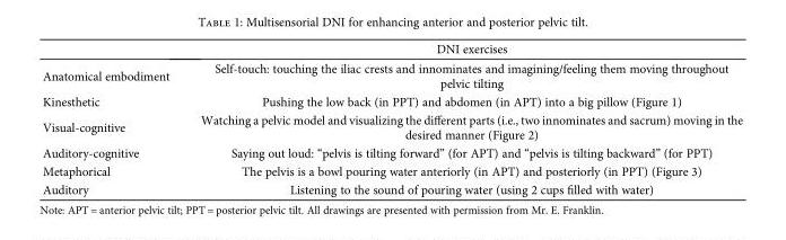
<table><thead><tr><td></td><td>DNI exercises</td></tr></thead><tbody><tr><td>Anatomical embodiment</td><td>Self-touch: touching the iliac crests and innominates and imagining/feeling them moving throughout pelvic tilting</td></tr><tr><td>Kinesthetic</td><td>Pushing the low back (in PPT) and abdomen (in APT) into a big pillow (Figure 1)</td></tr><tr><td>Visual-cognitive</td><td>Watching a pelvic model and visualizing the different parts (i.e., two innominates and sacrum) moving in the desired manner (Figure 2)</td></tr><tr><td>Auditory-cognitive</td><td>Saying out loud: “pelvis is tilting forward” (for APT) and “pelvis is tilting backward” (for PPT)</td></tr><tr><td>Metaphorical</td><td>The pelvis is a bowl pouring water anteriorly (in APT) and posteriorly (in PPT) (Figure 3)</td></tr><tr><td>Auditory</td><td>Listening to the sound of pouring water (using 2 cups filled with water)</td></tr></tbody></table>